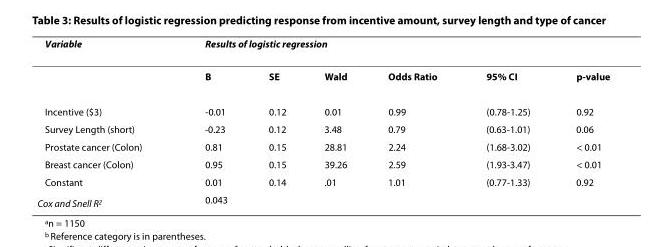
<table><thead><tr><td rowspan="2">Variable</td><td colspan="6">Results of logistic regression</td></tr><tr><td>B</td><td>SE</td><td>Wald</td><td>Odds Ratio</td><td>95% CI</td><td>p-value</td></tr></thead><tbody><tr><td>Incentive ($3)</td><td>-0.01</td><td>0.12</td><td>0.01</td><td>0.99</td><td>(0.78-1.25)</td><td>0.92</td></tr><tr><td>Survey Length (short)</td><td>-0.23</td><td>0.12</td><td>3.48</td><td>0.79</td><td>(0.63-1.01)</td><td>0.06</td></tr><tr><td>Prostate cancer (Colon)</td><td>0.81</td><td>0.15</td><td>28.81</td><td>2.24</td><td>(1.68-3.02)</td><td>&lt; 0.01</td></tr><tr><td>Breast cancer (Colon)</td><td>0.95</td><td>0.15</td><td>39.26</td><td>2.59</td><td>(1.93-3.47)</td><td>&lt; 0.01</td></tr><tr><td>Constant</td><td>0.01</td><td>0.14</td><td>.01</td><td>1.01</td><td>(0.77-1.33)</td><td>0.92</td></tr><tr><td>Cox and Snell R<sup>2</sup></td><td>0.043</td><td></td><td></td><td></td><td></td><td></td></tr></tbody></table>